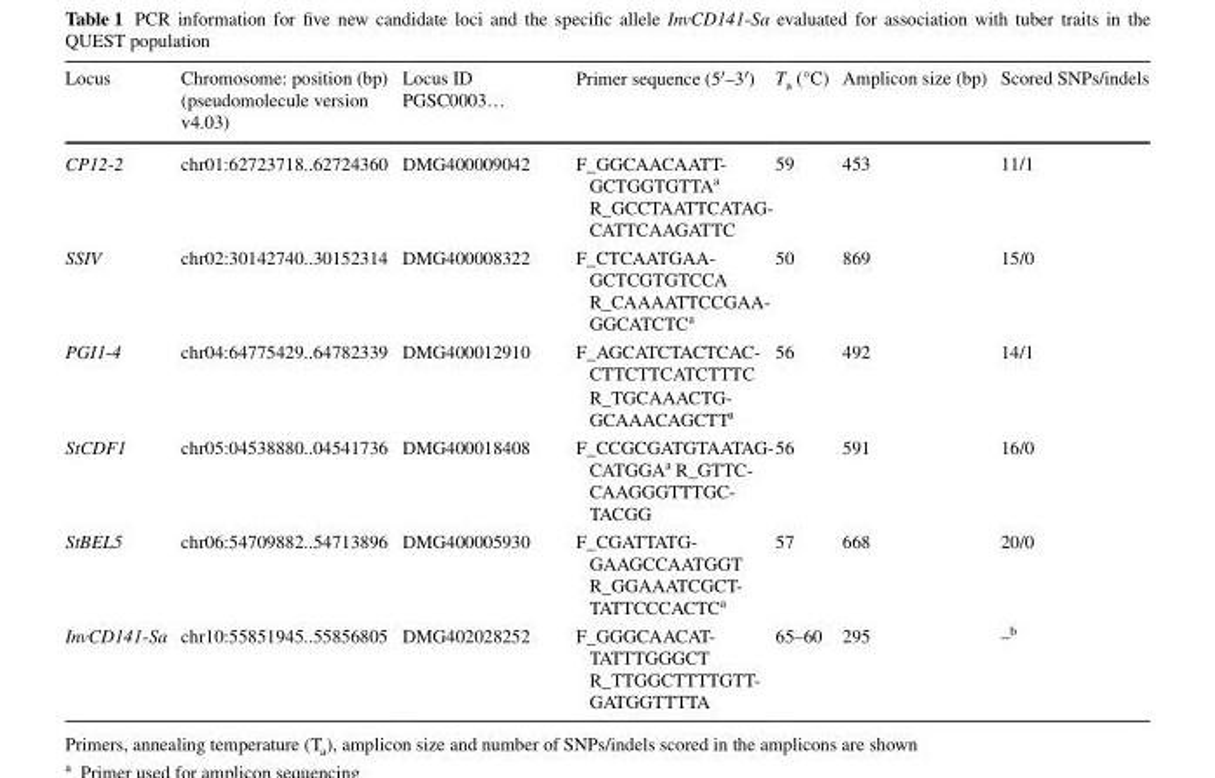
<table><thead><tr><td>Locus</td><td>Chromosome: position (bp) (pseudomolecule version v4.03)</td><td>Locus ID PGSC0003…</td><td>Primer sequence (5′–3′)</td><td>T<sub>a</sub> (°C)</td><td>Amplicon size (bp)</td><td>Scored SNPs/indels</td></tr></thead><tbody><tr><td>CP12-2</td><td>chr01:62723718..62724360</td><td>DMG400009042</td><td>F_GGCAACAATT- GCTGGTGTTAa R_GCCTAATTCATAG- CATTCAAGATTC</td><td>59</td><td>453</td><td>11/1</td></tr><tr><td>SSIV</td><td>chr02:30142740..30152314</td><td>DMG400008322</td><td>F_CTCAATGAA- GCTCGTGTCCA R_CAAAATTCCGAA- GGCATCTCa</td><td>50</td><td>869</td><td>15/0</td></tr><tr><td>PGI1-4</td><td>chr04:64775429..64782339</td><td>DMG400012910</td><td>F_AGCATCTACTCAC- CTTCTTCATCTTTC R_TGCAAACTG- GCAAACAGCTTa</td><td>56</td><td>492</td><td>14/1</td></tr><tr><td>StCDF1</td><td>chr05:04538880..04541736</td><td>DMG400018408</td><td>F_CCGCGATGTAATAG- CATGGAa R_GTTC- CAAGGGTTTGC- TACGG</td><td>56</td><td>591</td><td>16/0</td></tr><tr><td>StBEL5</td><td>chr06:54709882..54713896</td><td>DMG400005930</td><td>F_CGATTATG- GAAGCCAATGGT R_GGAAATCGCT- TATTCCCACTCa</td><td>57</td><td>668</td><td>20/0</td></tr><tr><td>InvCD141-Sa</td><td>chr10:55851945..55856805</td><td>DMG402028252</td><td>F_GGGCAACAT- TATTTGGGCT R_TTGGCTTTTGTT- GATGGTTTTA</td><td>65–60</td><td>295</td><td>–<sup>b</sup></td></tr></tbody></table>